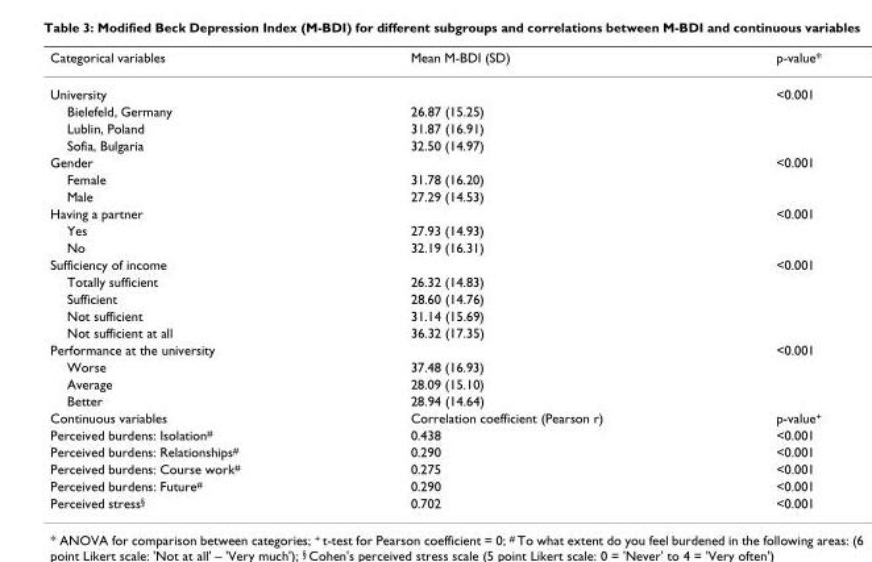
<table><thead><tr><td>Categorical variables</td><td>Mean M-BDI (SD)</td><td>p-value*</td></tr></thead><tbody><tr><td>University</td><td></td><td>&lt;0.001</td></tr><tr><td>Bielefeld, Germany</td><td>26.87 (15.25)</td><td></td></tr><tr><td>Lublin, Poland</td><td>31.87 (16.91)</td><td></td></tr><tr><td>Sofia, Bulgaria</td><td>32.50 (14.97)</td><td></td></tr><tr><td>Gender</td><td></td><td>&lt;0.001</td></tr><tr><td>Female</td><td>31.78 (16.20)</td><td></td></tr><tr><td>Male</td><td>27.29 (14.53)</td><td></td></tr><tr><td>Having a partner</td><td></td><td>&lt;0.001</td></tr><tr><td>Yes</td><td>27.93 (14.93)</td><td></td></tr><tr><td>No</td><td>32.19 (16.31)</td><td></td></tr><tr><td>Sufficiency of income</td><td></td><td>&lt;0.001</td></tr><tr><td>Totally sufficient</td><td>26.32 (14.83)</td><td></td></tr><tr><td>Sufficient</td><td>28.60 (14.76)</td><td></td></tr><tr><td>Not sufficient</td><td>31.14 (15.69)</td><td></td></tr><tr><td>Not sufficient at all</td><td>36.32 (17.35)</td><td></td></tr><tr><td>Performance at the university</td><td></td><td>&lt;0.001</td></tr><tr><td>Worse</td><td>37.48 (16.93)</td><td></td></tr><tr><td>Average</td><td>28.09 (15.10)</td><td></td></tr><tr><td>Better</td><td>28.94 (14.64)</td><td></td></tr><tr><td>Continuous variables</td><td>Correlation coefficient (Pearson r)</td><td>p-value<sup>+</sup></td></tr><tr><td>Perceived burdens: Isolation<sup>#</sup></td><td>0.438</td><td>&lt;0.001</td></tr><tr><td>Perceived burdens: Relationships<sup>#</sup></td><td>0.290</td><td>&lt;0.001</td></tr><tr><td>Perceived burdens: Course work<sup>#</sup></td><td>0.275</td><td>&lt;0.001</td></tr><tr><td>Perceived burdens: Future<sup>#</sup></td><td>0.290</td><td>&lt;0.001</td></tr><tr><td>Perceived stress<sup>§</sup></td><td>0.702</td><td>&lt;0.001</td></tr></tbody></table>